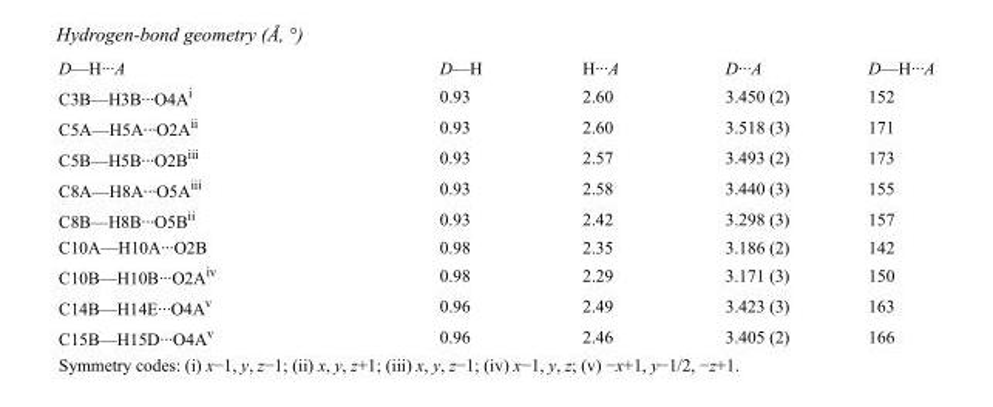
<table><tbody><tr><td>D—H···A</td><td>D—H</td><td>H···A</td><td>D···A</td><td>D—H···A</td></tr><tr><td>C3B—H3B···O4A<sup>i</sup></td><td>0.93</td><td>2.60</td><td>3.450 (2)</td><td>152</td></tr><tr><td>C5A—H5A···O2A<sup>ii</sup></td><td>0.93</td><td>2.60</td><td>3.518 (3)</td><td>171</td></tr><tr><td>C5B—H5B···O2B<sup>iii</sup></td><td>0.93</td><td>2.57</td><td>3.493 (2)</td><td>173</td></tr><tr><td>C8A—H8A···O5A<sup>iii</sup></td><td>0.93</td><td>2.58</td><td>3.440 (3)</td><td>155</td></tr><tr><td>C8B—H8B···O5B<sup>ii</sup></td><td>0.93</td><td>2.42</td><td>3.298 (3)</td><td>157</td></tr><tr><td>C10A—H10A···O2B</td><td>0.98</td><td>2.35</td><td>3.186 (2)</td><td>142</td></tr><tr><td>C10B—H10B···O2A<sup>iv</sup></td><td>0.98</td><td>2.29</td><td>3.171 (3)</td><td>150</td></tr><tr><td>C14B—H14E···O4A<sup>v</sup></td><td>0.96</td><td>2.49</td><td>3.423 (3)</td><td>163</td></tr><tr><td>C15B—H15D···O4A<sup>v</sup></td><td>0.96</td><td>2.46</td><td>3.405 (2)</td><td>166</td></tr></tbody></table>